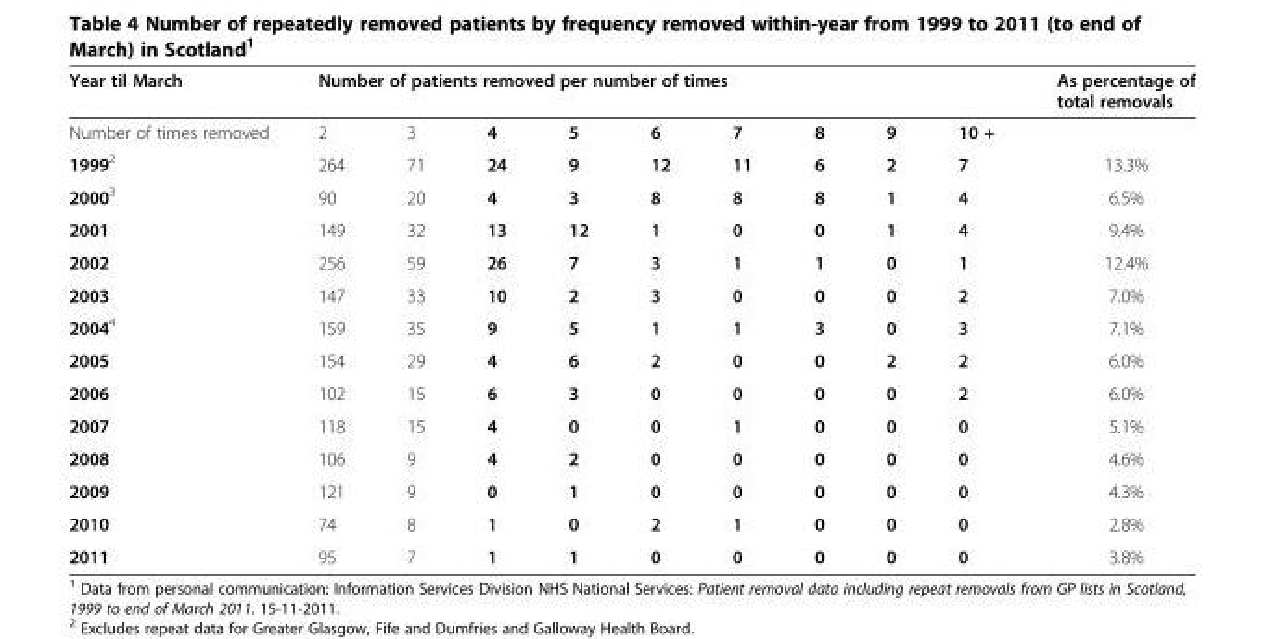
<table><thead><tr><td rowspan="2">Year til March Number of times removed</td><td colspan="9">Number of patients removed per number of times</td><td rowspan="2">As percentage of total removals</td></tr><tr><td>2</td><td>3</td><td>4</td><td>5</td><td>6</td><td>7</td><td>8</td><td>9</td><td>10 +</td></tr></thead><tbody><tr><td>1999<sup>2</sup></td><td>264</td><td>71</td><td>24</td><td>9</td><td>12</td><td>11</td><td>6</td><td>2</td><td>7</td><td>13.3%</td></tr><tr><td>2000<sup>3</sup></td><td>90</td><td>20</td><td>4</td><td>3</td><td>8</td><td>8</td><td>8</td><td>1</td><td>4</td><td>6.5%</td></tr><tr><td>2001</td><td>149</td><td>32</td><td>13</td><td>12</td><td>1</td><td>0</td><td>0</td><td>1</td><td>4</td><td>9.4%</td></tr><tr><td>2002</td><td>256</td><td>59</td><td>26</td><td>7</td><td>3</td><td>1</td><td>1</td><td>0</td><td>1</td><td>12.4%</td></tr><tr><td>2003</td><td>147</td><td>33</td><td>10</td><td>2</td><td>3</td><td>0</td><td>0</td><td>0</td><td>2</td><td>7.0%</td></tr><tr><td>2004<sup>4</sup></td><td>159</td><td>35</td><td>9</td><td>5</td><td>1</td><td>1</td><td>3</td><td>0</td><td>3</td><td>7.1%</td></tr><tr><td>2005</td><td>154</td><td>29</td><td>4</td><td>6</td><td>2</td><td>0</td><td>0</td><td>2</td><td>2</td><td>6.0%</td></tr><tr><td>2006</td><td>102</td><td>15</td><td>6</td><td>3</td><td>0</td><td>0</td><td>0</td><td>0</td><td>2</td><td>6.0%</td></tr><tr><td>2007</td><td>118</td><td>15</td><td>4</td><td>0</td><td>0</td><td>1</td><td>0</td><td>0</td><td>0</td><td>5.1%</td></tr><tr><td>2008</td><td>106</td><td>9</td><td>4</td><td>2</td><td>0</td><td>0</td><td>0</td><td>0</td><td>0</td><td>4.6%</td></tr><tr><td>2009</td><td>121</td><td>9</td><td>0</td><td>1</td><td>0</td><td>0</td><td>0</td><td>0</td><td>0</td><td>4.3%</td></tr><tr><td>2010</td><td>74</td><td>8</td><td>1</td><td>0</td><td>2</td><td>1</td><td>0</td><td>0</td><td>0</td><td>2.8%</td></tr><tr><td>2011</td><td>95</td><td>7</td><td>1</td><td>1</td><td>0</td><td>0</td><td>0</td><td>0</td><td>0</td><td>3.8%</td></tr></tbody></table>